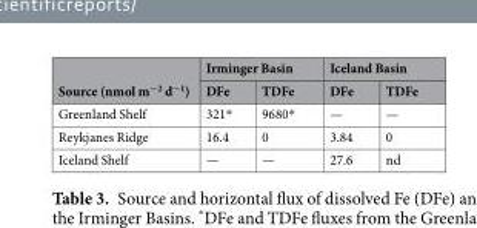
<table><thead><tr><td rowspan="2">Source (nmol m<sup>−2</sup> d<sup>−1</sup>)</td><td colspan="2">Irminger Basin</td><td colspan="2">Iceland Basin</td></tr><tr><td>DFe</td><td>TDFe</td><td>DFe</td><td>TDFe</td></tr></thead><tbody><tr><td>Greenland Shelf</td><td>321*</td><td>9680*</td><td>—</td><td>—</td></tr><tr><td>Reykjanes Ridge</td><td>16.4</td><td>0</td><td>3.84</td><td>0</td></tr><tr><td>Iceland Shelf</td><td>—</td><td>—</td><td>27.6</td><td>nd</td></tr></tbody></table>